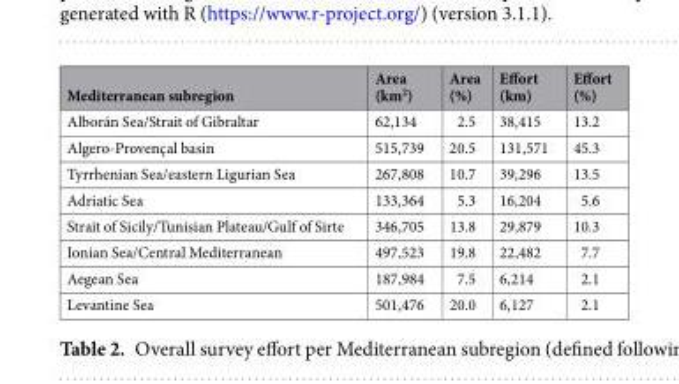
<table><thead><tr><td>Mediterranean subregion</td><td>Area (km<sup>2</sup>)</td><td>Area (%)</td><td>Effort (km)</td><td>Effort (%)</td></tr></thead><tbody><tr><td>Alborán Sea/Strait of Gibraltar</td><td>62,134</td><td>2.5</td><td>38,415</td><td>13.2</td></tr><tr><td>Algero-Provençal basin</td><td>515,739</td><td>20.5</td><td>131,571</td><td>45.3</td></tr><tr><td>Tyrrhenian Sea/eastern Ligurian Sea</td><td>267,808</td><td>10.7</td><td>39,296</td><td>13.5</td></tr><tr><td>Adriatic Sea</td><td>133,364</td><td>5.3</td><td>16,204</td><td>5.6</td></tr><tr><td>Strait of Sicily/Tunisian Plateau/Gulf of Sirte</td><td>346,705</td><td>13.8</td><td>29,879</td><td>10.3</td></tr><tr><td>Ionian Sea/Central Mediterranean</td><td>497,523</td><td>19.8</td><td>22,482</td><td>7.7</td></tr><tr><td>Aegean Sea</td><td>187,984</td><td>7.5</td><td>6,214</td><td>2.1</td></tr><tr><td>Levantine Sea</td><td>501,476</td><td>20.0</td><td>6,127</td><td>2.1</td></tr></tbody></table>